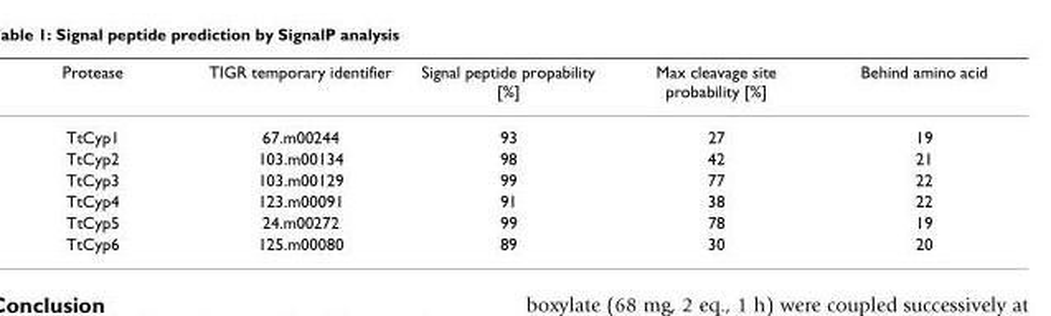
<table><thead><tr><td>Protease</td><td>TIGR temporary identifier</td><td>Signal peptide propability [%]</td><td>Max cleavage site probability [%]</td><td>Behind amino acid</td></tr></thead><tbody><tr><td>TtCyp1</td><td>67.m00244</td><td>93</td><td>27</td><td>19</td></tr><tr><td>TtCyp2</td><td>103.m00134</td><td>98</td><td>42</td><td>21</td></tr><tr><td>TtCyp3</td><td>103.m00129</td><td>99</td><td>77</td><td>22</td></tr><tr><td>TtCyp4</td><td>123.m00091</td><td>91</td><td>38</td><td>22</td></tr><tr><td>TtCyp5</td><td>24.m00272</td><td>99</td><td>78</td><td>19</td></tr><tr><td>TtCyp6</td><td>125.m00080</td><td>89</td><td>30</td><td>20</td></tr></tbody></table>